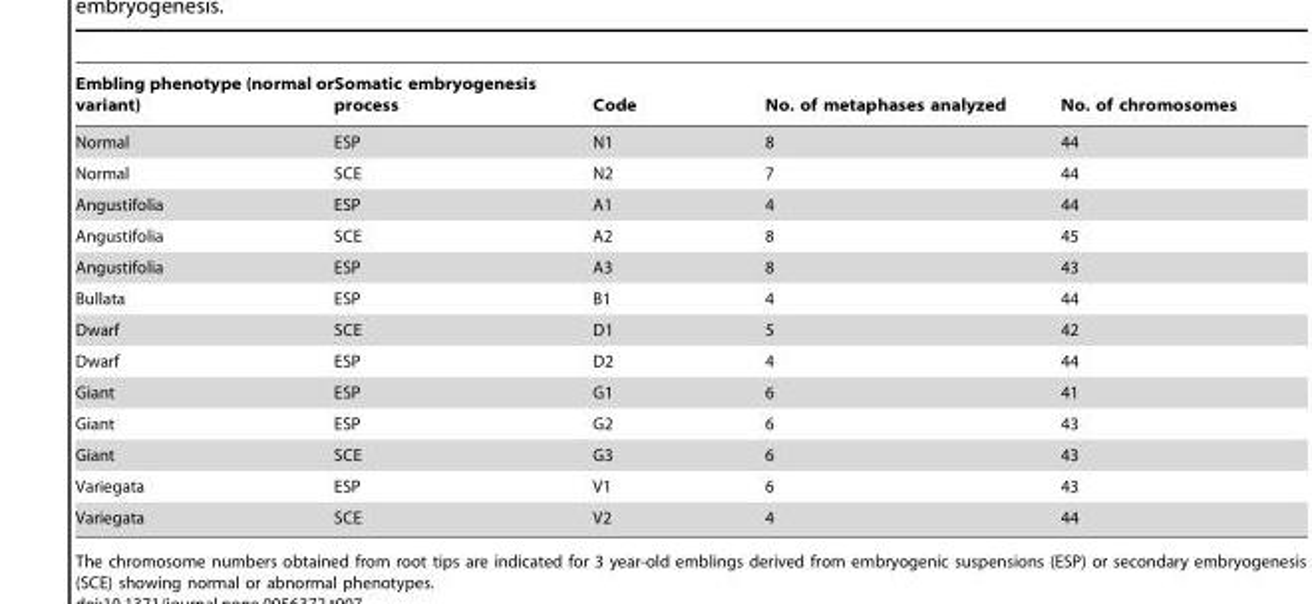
<table><thead><tr><td>Embling phenotype (normal or variant)</td><td>Somatic embryogenesis process</td><td>Code</td><td>No. of metaphases analyzed</td><td>No. of chromosomes</td></tr></thead><tbody><tr><td>Normal</td><td>ESP</td><td>N1</td><td>8</td><td>44</td></tr><tr><td>Normal</td><td>SCE</td><td>N2</td><td>7</td><td>44</td></tr><tr><td>Angustifolia</td><td>ESP</td><td>A1</td><td>4</td><td>44</td></tr><tr><td>Angustifolia</td><td>SCE</td><td>A2</td><td>8</td><td>45</td></tr><tr><td>Angustifolia</td><td>ESP</td><td>A3</td><td>8</td><td>43</td></tr><tr><td>Bullata</td><td>ESP</td><td>B1</td><td>4</td><td>44</td></tr><tr><td>Dwarf</td><td>SCE</td><td>D1</td><td>5</td><td>42</td></tr><tr><td>Dwarf</td><td>ESP</td><td>D2</td><td>4</td><td>44</td></tr><tr><td>Giant</td><td>ESP</td><td>G1</td><td>6</td><td>41</td></tr><tr><td>Giant</td><td>ESP</td><td>G2</td><td>6</td><td>43</td></tr><tr><td>Giant</td><td>SCE</td><td>G3</td><td>6</td><td>43</td></tr><tr><td>Variegata</td><td>ESP</td><td>V1</td><td>6</td><td>43</td></tr><tr><td>Variegata</td><td>SCE</td><td>V2</td><td>4</td><td>44</td></tr></tbody></table>